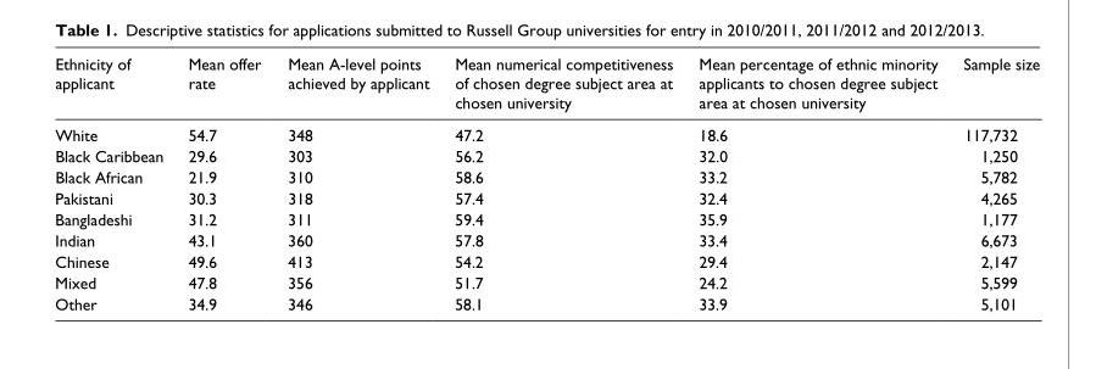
<table><thead><tr><td>Ethnicity of applicant</td><td>Mean offer rate</td><td>Mean A-level points achieved by applicant</td><td>Mean numerical competitiveness of chosen degree subject area at chosen university</td><td>Mean percentage of ethnic minority applicants to chosen degree subject area at chosen university</td><td>Sample size</td></tr></thead><tbody><tr><td>White</td><td>54.7</td><td>348</td><td>47.2</td><td>18.6</td><td>117,732</td></tr><tr><td>Black Caribbean</td><td>29.6</td><td>303</td><td>56.2</td><td>32.0</td><td>1,250</td></tr><tr><td>Black African</td><td>21.9</td><td>310</td><td>58.6</td><td>33.2</td><td>5,782</td></tr><tr><td>Pakistani</td><td>30.3</td><td>318</td><td>57.4</td><td>32.4</td><td>4,265</td></tr><tr><td>Bangladeshi</td><td>31.2</td><td>311</td><td>59.4</td><td>35.9</td><td>1,177</td></tr><tr><td>Indian</td><td>43.1</td><td>360</td><td>57.8</td><td>33.4</td><td>6,673</td></tr><tr><td>Chinese</td><td>49.6</td><td>413</td><td>54.2</td><td>29.4</td><td>2,147</td></tr><tr><td>Mixed</td><td>47.8</td><td>356</td><td>51.7</td><td>24.2</td><td>5,599</td></tr><tr><td>Other</td><td>34.9</td><td>346</td><td>58.1</td><td>33.9</td><td>5,101</td></tr></tbody></table>